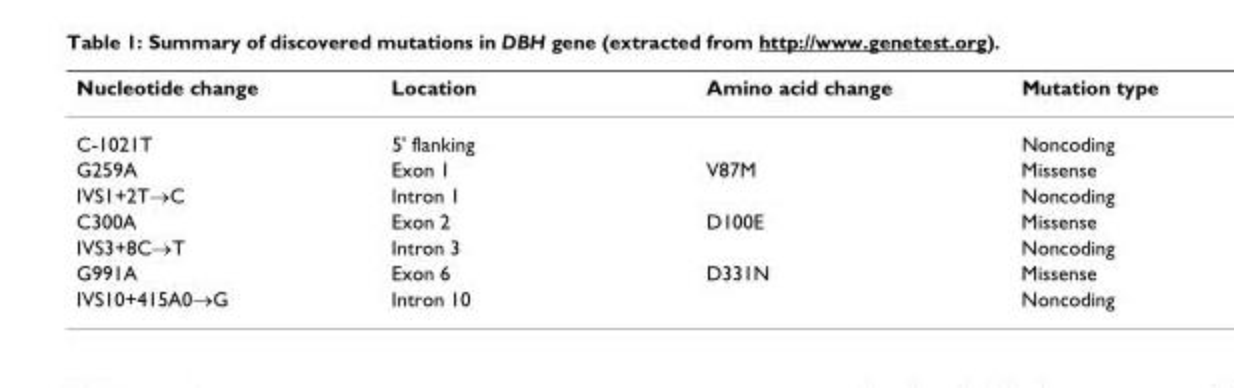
<table><thead><tr><td>Nucleotide change</td><td>Location</td><td>Amino acid change</td><td>Mutation type</td></tr></thead><tbody><tr><td>C-1021T</td><td>5&#x27; flanking</td><td></td><td>Noncoding</td></tr><tr><td>G259A</td><td>Exon 1</td><td>V87M</td><td>Missense</td></tr><tr><td>IVS1+2T→C</td><td>Intron 1</td><td></td><td>Noncoding</td></tr><tr><td>C300A</td><td>Exon 2</td><td>D100E</td><td>Missense</td></tr><tr><td>IVS3+8C→T</td><td>Intron 3</td><td></td><td>Noncoding</td></tr><tr><td>G991A</td><td>Exon 6</td><td>D331N</td><td>Missense</td></tr><tr><td>IVS10+415A0→G</td><td>Intron 10</td><td></td><td>Noncoding</td></tr></tbody></table>